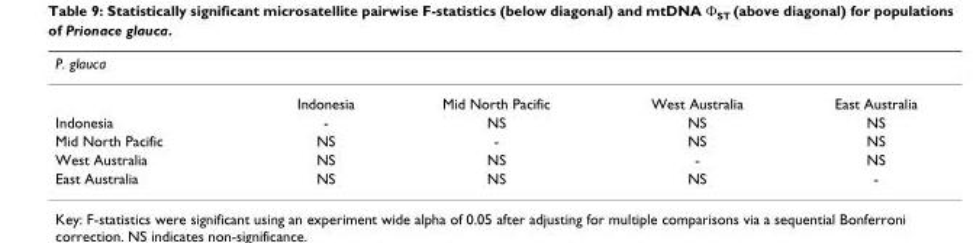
<table><thead><tr><td colspan="5">P. glauca</td></tr><tr><td></td><td>Indonesia</td><td>Mid North Pacific</td><td>West Australia</td><td>East Australia</td></tr></thead><tbody><tr><td>Indonesia</td><td>-</td><td>NS</td><td>NS</td><td>NS</td></tr><tr><td>Mid North Pacific</td><td>NS</td><td>-</td><td>NS</td><td>NS</td></tr><tr><td>West Australia</td><td>NS</td><td>NS</td><td>-</td><td>NS</td></tr><tr><td>East Australia</td><td>NS</td><td>NS</td><td>NS</td><td>-</td></tr></tbody></table>